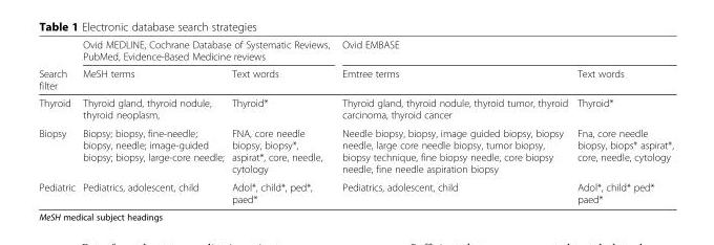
<table><thead><tr><td rowspan="2">Search filter</td><td colspan="2">Ovid MEDLINE, Cochrane Database of Systematic Reviews, PubMed, Evidence-Based Medicine reviews</td><td colspan="2">Ovid EMBASE</td></tr><tr><td>MeSH terms</td><td>Text words</td><td>Emtree terms</td><td>Text words</td></tr></thead><tbody><tr><td>Thyroid</td><td>Thyroid gland, thyroid nodule, thyroid neoplasm,</td><td>Thyroid*</td><td>Thyroid gland, thyroid nodule, thyroid tumor, thyroid carcinoma, thyroid cancer</td><td>Thyroid*</td></tr><tr><td>Biopsy</td><td>Biopsy; biopsy, fine-needle; biopsy, needle; image-guided biopsy; biopsy, large-core needle;</td><td>FNA, core needle biopsy, biopsy*, aspirat*, core, needle, cytology</td><td>Needle biopsy, biopsy, image guided biopsy, biopsy needle, large core needle biopsy, tumor biopsy, biopsy technique, fine biopsy needle, core biopsy needle, fine needle aspiration biopsy</td><td>Fna, core needle biopsy, biops* aspirat*, core, needle, cytology</td></tr><tr><td>Pediatric</td><td>Pediatrics, adolescent, child</td><td>Adol*, child*, ped*, paed*</td><td>Pediatrics, adolescent, child</td><td>Adol*, child* ped* paed*</td></tr></tbody></table>